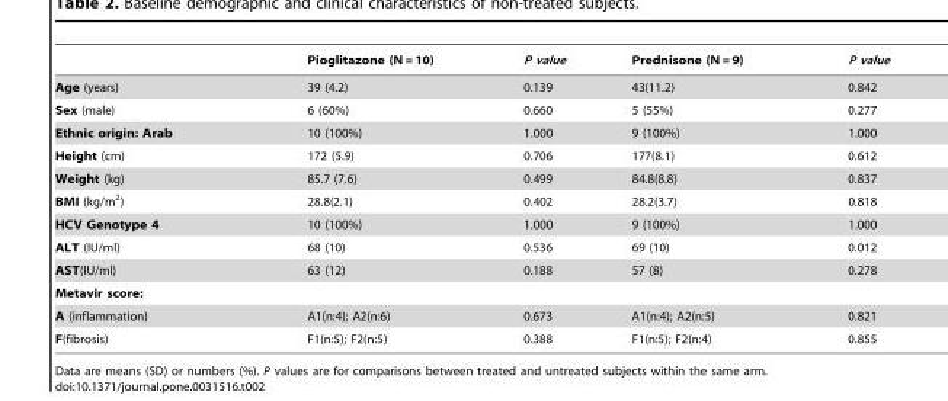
<table><thead><tr><td></td><td>Pioglitazone (N = 10)</td><td>P value</td><td>Prednisone (N = 9)</td><td>P value</td></tr></thead><tbody><tr><td>Age (years)</td><td>39 (4.2)</td><td>0.139</td><td>43(11.2)</td><td>0.842</td></tr><tr><td>Sex (male)</td><td>6 (60%)</td><td>0.660</td><td>5 (55%)</td><td>0.277</td></tr><tr><td>Ethnic origin: Arab</td><td>10 (100%)</td><td>1.000</td><td>9 (100%)</td><td>1.000</td></tr><tr><td>Height (cm)</td><td>172 (5.9)</td><td>0.706</td><td>177(8.1)</td><td>0.612</td></tr><tr><td>Weight (kg)</td><td>85.7 (7.6)</td><td>0.499</td><td>84.8(8.8)</td><td>0.837</td></tr><tr><td>BMI (kg/m<sup>2</sup>)</td><td>28.8(2.1)</td><td>0.402</td><td>28.2(3.7)</td><td>0.818</td></tr><tr><td>HCV Genotype 4</td><td>10 (100%)</td><td>1.000</td><td>9 (100%)</td><td>1.000</td></tr><tr><td>ALT (IU/ml)</td><td>68 (10)</td><td>0.536</td><td>69 (10)</td><td>0.012</td></tr><tr><td>AST(IU/ml)</td><td>63 (12)</td><td>0.188</td><td>57 (8)</td><td>0.278</td></tr><tr><td colspan="5">Metavir score:</td></tr><tr><td>A (inflammation)</td><td>A1(n:4); A2(n:6)</td><td>0.673</td><td>A1(n:4); A2(n:5)</td><td>0.821</td></tr><tr><td>F(fibrosis)</td><td>F1(n:5); F2(n:5)</td><td>0.388</td><td>F1(n:5); F2(n:4)</td><td>0.855</td></tr></tbody></table>